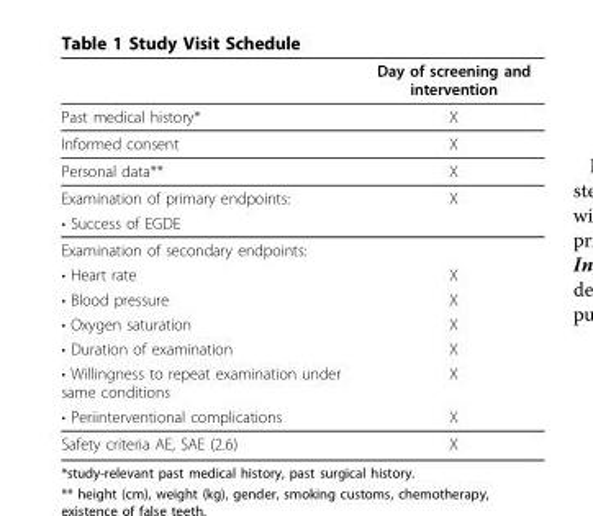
<table><thead><tr><td></td><td>Day of screening and intervention</td></tr></thead><tbody><tr><td>Past medical history*</td><td>X</td></tr><tr><td>Informed consent</td><td>X</td></tr><tr><td>Personal data**</td><td>X</td></tr><tr><td>Examination of primary endpoints:</td><td>X</td></tr><tr><td colspan="2">• Success of EGDE</td></tr><tr><td colspan="2">Examination of secondary endpoints:</td></tr><tr><td>• Heart rate</td><td>X</td></tr><tr><td>• Blood pressure</td><td>X</td></tr><tr><td>• Oxygen saturation</td><td>X</td></tr><tr><td>• Duration of examination</td><td>X</td></tr><tr><td>• Willingness to repeat examination under same conditions</td><td>X</td></tr><tr><td>• Periinterventional complications</td><td>X</td></tr><tr><td>Safety criteria AE, SAE (2.6)</td><td>X</td></tr></tbody></table>